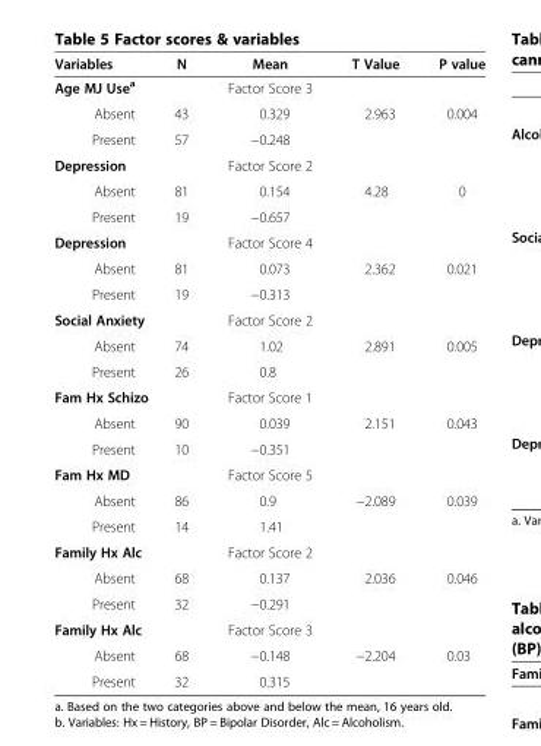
<table><thead><tr><td>Variables</td><td>N</td><td>Mean</td><td>T Value</td><td>P value</td></tr></thead><tbody><tr><td>Age MJ Use<sup>a</sup></td><td></td><td>Factor Score 3</td><td></td><td></td></tr><tr><td>Absent</td><td>43</td><td>0.329</td><td>2.963</td><td>0.004</td></tr><tr><td>Present</td><td>57</td><td>−0.248</td><td></td><td></td></tr><tr><td>Depression</td><td></td><td>Factor Score 2</td><td></td><td></td></tr><tr><td>Absent</td><td>81</td><td>0.154</td><td>4.28</td><td>0</td></tr><tr><td>Present</td><td>19</td><td>−0.657</td><td></td><td></td></tr><tr><td>Depression</td><td></td><td>Factor Score 4</td><td></td><td></td></tr><tr><td>Absent</td><td>81</td><td>0.073</td><td>2.362</td><td>0.021</td></tr><tr><td>Present</td><td>19</td><td>−0.313</td><td></td><td></td></tr><tr><td colspan="2">Social Anxiety</td><td>Factor Score 2</td><td></td><td></td></tr><tr><td>Absent</td><td>74</td><td>1.02</td><td>2.891</td><td>0.005</td></tr><tr><td>Present</td><td>26</td><td>0.8</td><td></td><td></td></tr><tr><td colspan="2">Fam Hx Schizo</td><td>Factor Score 1</td><td></td><td></td></tr><tr><td>Absent</td><td>90</td><td>0.039</td><td>2.151</td><td>0.043</td></tr><tr><td>Present</td><td>10</td><td>−0.351</td><td></td><td></td></tr><tr><td>Fam Hx MD</td><td></td><td>Factor Score 5</td><td></td><td></td></tr><tr><td>Absent</td><td>86</td><td>0.9</td><td>−2.089</td><td>0.039</td></tr><tr><td>Present</td><td>14</td><td>1.41</td><td></td><td></td></tr><tr><td colspan="2">Family Hx Alc</td><td>Factor Score 2</td><td></td><td></td></tr><tr><td>Absent</td><td>68</td><td>0.137</td><td>2.036</td><td>0.046</td></tr><tr><td>Present</td><td>32</td><td>−0.291</td><td></td><td></td></tr><tr><td colspan="2">Family Hx Alc</td><td>Factor Score 3</td><td></td><td></td></tr><tr><td>Absent</td><td>68</td><td>−0.148</td><td>−2.204</td><td>0.03</td></tr><tr><td>Present</td><td>32</td><td>0.315</td><td></td><td></td></tr></tbody></table>